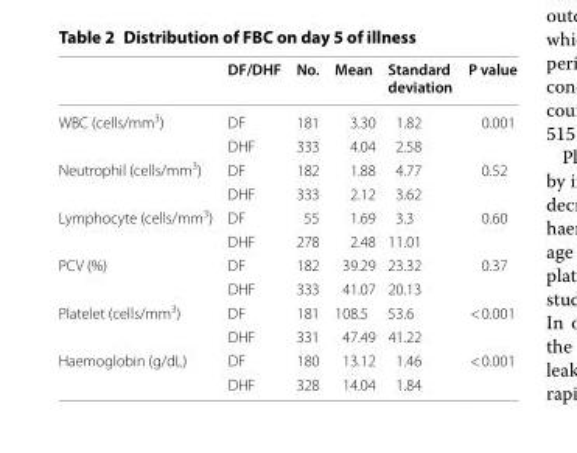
<table><thead><tr><td></td><td>DF/DHF</td><td>No.</td><td>Mean</td><td>Standard deviation</td><td>P value</td></tr></thead><tbody><tr><td rowspan="2">WBC (cells/mm<sup>3</sup>)</td><td>DF</td><td>181</td><td>3.30</td><td>1.82</td><td>0.001</td></tr><tr><td>DHF</td><td>333</td><td>4.04</td><td>2.58</td><td></td></tr><tr><td rowspan="2">Neutrophil (cells/mm<sup>3</sup>)</td><td>DF</td><td>182</td><td>1.88</td><td>4.77</td><td>0.52</td></tr><tr><td>DHF</td><td>333</td><td>2.12</td><td>3.62</td><td></td></tr><tr><td rowspan="2">Lymphocyte (cells/mm<sup>3</sup>)</td><td>DF</td><td>55</td><td>1.69</td><td>3.3</td><td>0.60</td></tr><tr><td>DHF</td><td>278</td><td>2.48</td><td>11.01</td><td></td></tr><tr><td rowspan="2">PCV (%)</td><td>DF</td><td>182</td><td>39.29</td><td>23.32</td><td>0.37</td></tr><tr><td>DHF</td><td>333</td><td>41.07</td><td>20.13</td><td></td></tr><tr><td rowspan="2">Platelet (cells/mm<sup>3</sup>)</td><td>DF</td><td>181</td><td>108.5</td><td>53.6</td><td>&lt; 0.001</td></tr><tr><td>DHF</td><td>331</td><td>47.49</td><td>41.22</td><td></td></tr><tr><td rowspan="2">Haemoglobin (g/dL)</td><td>DF</td><td>180</td><td>13.12</td><td>1.46</td><td>&lt; 0.001</td></tr><tr><td>DHF</td><td>328</td><td>14.04</td><td>1.84</td><td></td></tr></tbody></table>